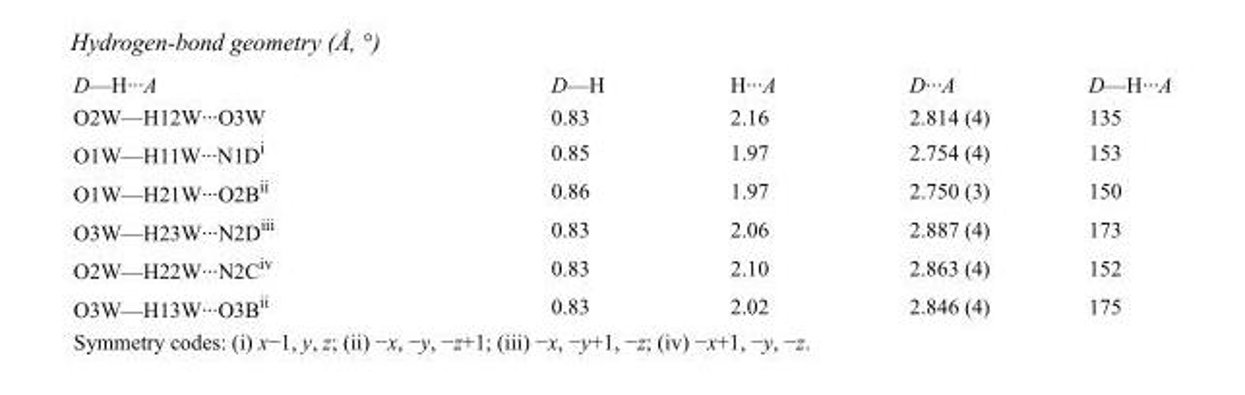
<table><tbody><tr><td>D—H···A</td><td>D—H</td><td>H···A</td><td>D···A</td><td>D—H···A</td></tr><tr><td>O2W—H12W···O3W</td><td>0.83</td><td>2.16</td><td>2.814 (4)</td><td>135</td></tr><tr><td>O1W—H11W···N1D<sup>i</sup></td><td>0.85</td><td>1.97</td><td>2.754 (4)</td><td>153</td></tr><tr><td>O1W—H21W···O2B<sup>ii</sup></td><td>0.86</td><td>1.97</td><td>2.750 (3)</td><td>150</td></tr><tr><td>O3W—H23W···N2D<sup>iii</sup></td><td>0.83</td><td>2.06</td><td>2.887 (4)</td><td>173</td></tr><tr><td>O2W—H22W···N2C<sup>iv</sup></td><td>0.83</td><td>2.10</td><td>2.863 (4)</td><td>152</td></tr><tr><td>O3W—H13W···O3B<sup>ii</sup></td><td>0.83</td><td>2.02</td><td>2.846 (4)</td><td>175</td></tr></tbody></table>